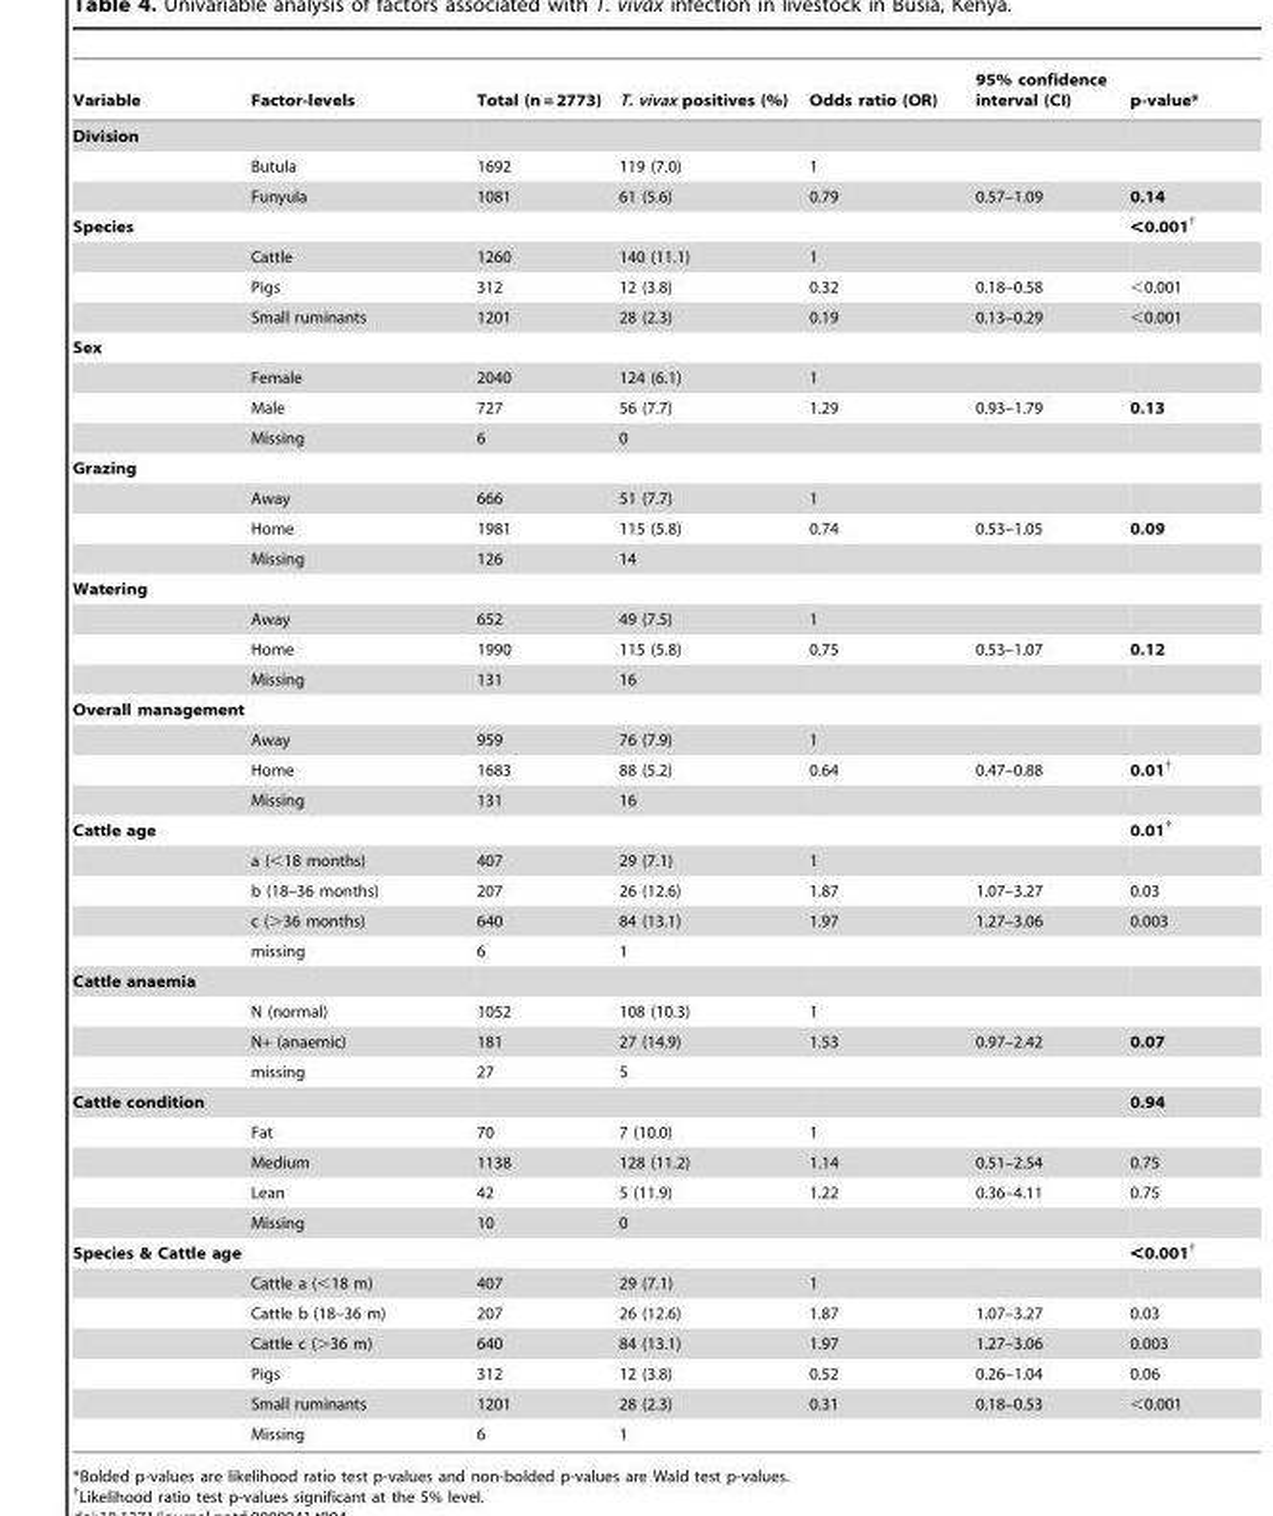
<table><thead><tr><td>Variable</td><td>Factor-levels</td><td>Total (n = 2773)</td><td>T. vivax positives (%)</td><td>Odds ratio (OR)</td><td>95% confidence interval (CI)</td><td>p-value*</td></tr></thead><tbody><tr><td colspan="7">Division</td></tr><tr><td></td><td>Butula</td><td>1692</td><td>119 (7.0)</td><td>1</td><td></td><td></td></tr><tr><td></td><td>Funyula</td><td>1081</td><td>61 (5.6)</td><td>0.79</td><td>0.57–1.09</td><td>0.14</td></tr><tr><td colspan="2">Species</td><td></td><td></td><td></td><td></td><td>&lt;0.001†</td></tr><tr><td></td><td>Cattle</td><td>1260</td><td>140 (11.1)</td><td>1</td><td></td><td></td></tr><tr><td></td><td>Pigs</td><td>312</td><td>12 (3.8)</td><td>0.32</td><td>0.18–0.58</td><td>&lt;0.001</td></tr><tr><td></td><td>Small ruminants</td><td>1201</td><td>28 (2.3)</td><td>0.19</td><td>0.13–0.29</td><td>&lt;0.001</td></tr><tr><td colspan="7">Sex</td></tr><tr><td></td><td>Female</td><td>2040</td><td>124 (6.1)</td><td>1</td><td></td><td></td></tr><tr><td></td><td>Male</td><td>727</td><td>56 (7.7)</td><td>1.29</td><td>0.93–1.79</td><td>0.13</td></tr><tr><td></td><td>Missing</td><td>6</td><td>0</td><td></td><td></td><td></td></tr><tr><td colspan="7">Grazing</td></tr><tr><td></td><td>Away</td><td>666</td><td>51 (7.7)</td><td>1</td><td></td><td></td></tr><tr><td></td><td>Home</td><td>1981</td><td>115 (5.8)</td><td>0.74</td><td>0.53–1.05</td><td>0.09</td></tr><tr><td></td><td>Missing</td><td>126</td><td>14</td><td></td><td></td><td></td></tr><tr><td colspan="7">Watering</td></tr><tr><td></td><td>Away</td><td>652</td><td>49 (7.5)</td><td>1</td><td></td><td></td></tr><tr><td></td><td>Home</td><td>1990</td><td>115 (5.8)</td><td>0.75</td><td>0.53–1.07</td><td>0.12</td></tr><tr><td></td><td>Missing</td><td>131</td><td>16</td><td></td><td></td><td></td></tr><tr><td colspan="7">Overall management</td></tr><tr><td></td><td>Away</td><td>959</td><td>76 (7.9)</td><td>1</td><td></td><td></td></tr><tr><td></td><td>Home</td><td>1683</td><td>88 (5.2)</td><td>0.64</td><td>0.47–0.88</td><td>0.01†</td></tr><tr><td></td><td>Missing</td><td>131</td><td>16</td><td></td><td></td><td></td></tr><tr><td colspan="2">Cattle age</td><td></td><td></td><td></td><td></td><td>0.01†</td></tr><tr><td></td><td>a (&lt;18 months)</td><td>407</td><td>29 (7.1)</td><td>1</td><td></td><td></td></tr><tr><td></td><td>b (18–36 months)</td><td>207</td><td>26 (12.6)</td><td>1.87</td><td>1.07–3.27</td><td>0.03</td></tr><tr><td></td><td>c (&gt;36 months)</td><td>640</td><td>84 (13.1)</td><td>1.97</td><td>1.27–3.06</td><td>0.003</td></tr><tr><td></td><td>missing</td><td>6</td><td>1</td><td></td><td></td><td></td></tr><tr><td colspan="7">Cattle anaemia</td></tr><tr><td></td><td>N (normal)</td><td>1052</td><td>108 (10.3)</td><td>1</td><td></td><td></td></tr><tr><td></td><td>N+ (anaemic)</td><td>181</td><td>27 (14.9)</td><td>1.53</td><td>0.97–2.42</td><td>0.07</td></tr><tr><td></td><td>missing</td><td>27</td><td>5</td><td></td><td></td><td></td></tr><tr><td colspan="2">Cattle condition</td><td></td><td></td><td></td><td></td><td>0.94</td></tr><tr><td></td><td>Fat</td><td>70</td><td>7 (10.0)</td><td>1</td><td></td><td></td></tr><tr><td></td><td>Medium</td><td>1138</td><td>128 (11.2)</td><td>1.14</td><td>0.51–2.54</td><td>0.75</td></tr><tr><td></td><td>Lean</td><td>42</td><td>5 (11.9)</td><td>1.22</td><td>0.36–4.11</td><td>0.75</td></tr><tr><td></td><td>Missing</td><td>10</td><td>0</td><td></td><td></td><td></td></tr><tr><td colspan="2">Species &amp; Cattle age</td><td></td><td></td><td></td><td></td><td>&lt;0.001†</td></tr><tr><td></td><td>Cattle a (&lt;18 m)</td><td>407</td><td>29 (7.1)</td><td>1</td><td></td><td></td></tr><tr><td></td><td>Cattle b (18–36 m)</td><td>207</td><td>26 (12.6)</td><td>1.87</td><td>1.07–3.27</td><td>0.03</td></tr><tr><td></td><td>Cattle c (&gt;36 m)</td><td>640</td><td>84 (13.1)</td><td>1.97</td><td>1.27–3.06</td><td>0.003</td></tr><tr><td></td><td>Pigs</td><td>312</td><td>12 (3.8)</td><td>0.52</td><td>0.26–1.04</td><td>0.06</td></tr><tr><td></td><td>Small ruminants</td><td>1201</td><td>28 (2.3)</td><td>0.31</td><td>0.18–0.53</td><td>&lt;0.001</td></tr><tr><td></td><td>Missing</td><td>6</td><td>1</td><td></td><td></td><td></td></tr></tbody></table>